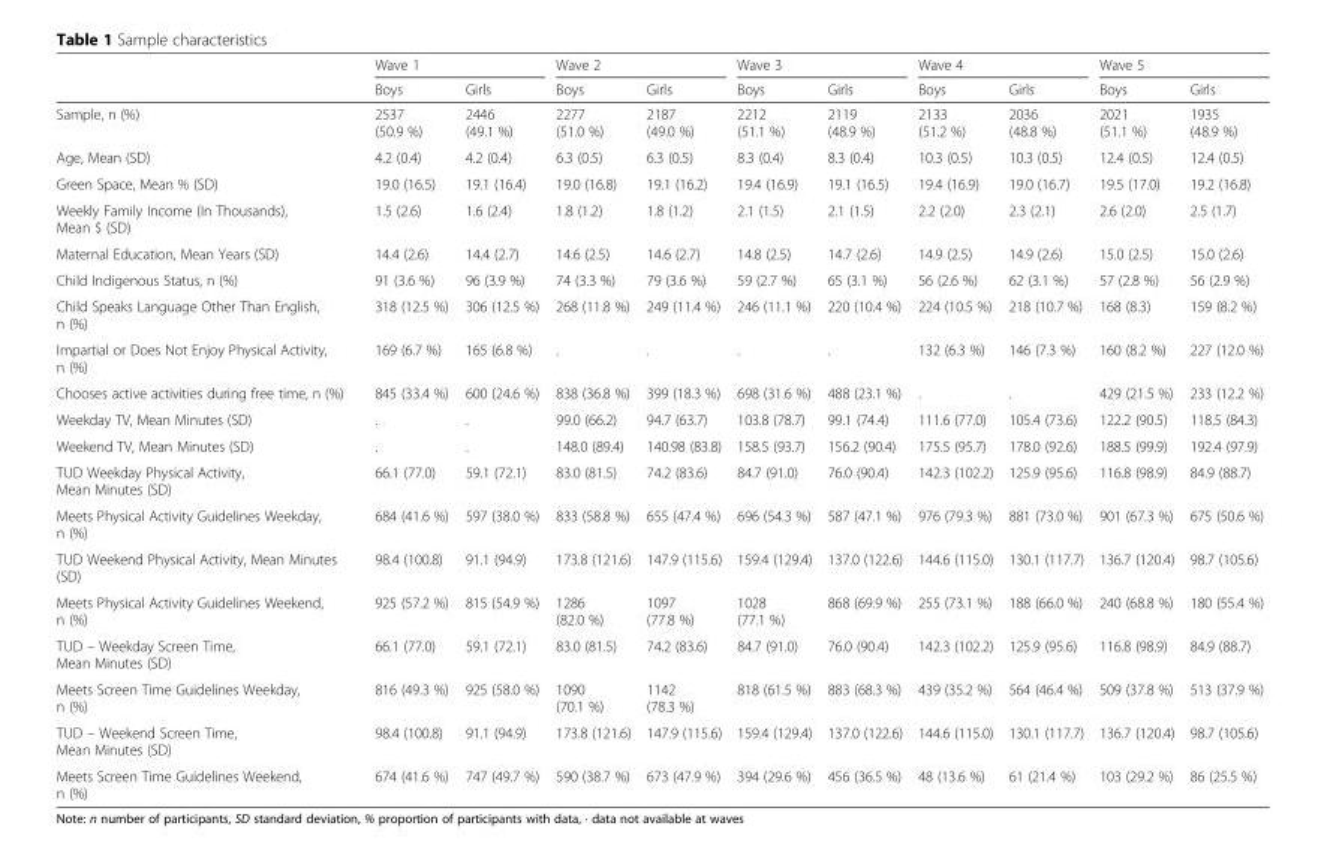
<table><thead><tr><td rowspan="2"></td><td colspan="2">Wave 1</td><td colspan="2">Wave 2</td><td colspan="2">Wave 3</td><td colspan="2">Wave 4</td><td colspan="2">Wave 5</td></tr><tr><td>Boys</td><td>Girls</td><td>Boys</td><td>Girls</td><td>Boys</td><td>Girls</td><td>Boys</td><td>Girls</td><td>Boys</td><td>Girls</td></tr></thead><tbody><tr><td>Sample, n (%)</td><td>2537 (50.9 %)</td><td>2446 (49.1 %)</td><td>2277 (51.0 %)</td><td>2187 (49.0 %)</td><td>2212 (51.1 %)</td><td>2119 (48.9 %)</td><td>2133 (51.2 %)</td><td>2036 (48.8 %)</td><td>2021 (51.1 %)</td><td>1935 (48.9 %)</td></tr><tr><td>Age, Mean (SD)</td><td>4.2 (0.4)</td><td>4.2 (0.4)</td><td>6.3 (0.5)</td><td>6.3 (0.5)</td><td>8.3 (0.4)</td><td>8.3 (0.4)</td><td>10.3 (0.5)</td><td>10.3 (0.5)</td><td>12.4 (0.5)</td><td>12.4 (0.5)</td></tr><tr><td>Green Space, Mean % (SD)</td><td>19.0 (16.5)</td><td>19.1 (16.4)</td><td>19.0 (16.8)</td><td>19.1 (16.2)</td><td>19.4 (16.9)</td><td>19.1 (16.5)</td><td>19.4 (16.9)</td><td>19.0 (16.7)</td><td>19.5 (17.0)</td><td>19.2 (16.8)</td></tr><tr><td>Weekly Family Income (In Thousands), Mean $ (SD)</td><td>1.5 (2.6)</td><td>1.6 (2.4)</td><td>1.8 (1.2)</td><td>1.8 (1.2)</td><td>2.1 (1.5)</td><td>2.1 (1.5)</td><td>2.2 (2.0)</td><td>2.3 (2.1)</td><td>2.6 (2.0)</td><td>2.5 (1.7)</td></tr><tr><td>Maternal Education, Mean Years (SD)</td><td>14.4 (2.6)</td><td>14.4 (2.7)</td><td>14.6 (2.5)</td><td>14.6 (2.7)</td><td>14.8 (2.5)</td><td>14.7 (2.6)</td><td>14.9 (2.5)</td><td>14.9 (2.6)</td><td>15.0 (2.5)</td><td>15.0 (2.6)</td></tr><tr><td>Child Indigenous Status, n (%)</td><td>91 (3.6 %)</td><td>96 (3.9 %)</td><td>74 (3.3 %)</td><td>79 (3.6 %)</td><td>59 (2.7 %)</td><td>65 (3.1 %)</td><td>56 (2.6 %)</td><td>62 (3.1 %)</td><td>57 (2.8 %)</td><td>56 (2.9 %)</td></tr><tr><td>Child Speaks Language Other Than English, n (%)</td><td>318 (12.5 %)</td><td>306 (12.5 %)</td><td>268 (11.8 %)</td><td>249 (11.4 %)</td><td>246 (11.1 %)</td><td>220 (10.4 %)</td><td>224 (10.5 %)</td><td>218 (10.7 %)</td><td>168 (8.3)</td><td>159 (8.2 %)</td></tr><tr><td>Impartial or Does Not Enjoy Physical Activity, n (%)</td><td>169 (6.7 %)</td><td>165 (6.8 %)</td><td>.</td><td>.</td><td>.</td><td>.</td><td>132 (6.3 %)</td><td>146 (7.3 %)</td><td>160 (8.2 %)</td><td>227 (12.0 %)</td></tr><tr><td>Chooses active activities during free time, n (%)</td><td>845 (33.4 %)</td><td>600 (24.6 %)</td><td>838 (36.8 %)</td><td>399 (18.3 %)</td><td>698 (31.6 %)</td><td>488 (23.1 %)</td><td>.</td><td>.</td><td>429 (21.5 %)</td><td>233 (12.2 %)</td></tr><tr><td>Weekday TV, Mean Minutes (SD)</td><td>.</td><td>.</td><td>99.0 (66.2)</td><td>94.7 (63.7)</td><td>103.8 (78.7)</td><td>99.1 (74.4)</td><td>111.6 (77.0)</td><td>105.4 (73.6)</td><td>122.2 (90.5)</td><td>118.5 (84.3)</td></tr><tr><td>Weekend TV, Mean Minutes (SD)</td><td>.</td><td>.</td><td>148.0 (89.4)</td><td>140.98 (83.8)</td><td>158.5 (93.7)</td><td>156.2 (90.4)</td><td>175.5 (95.7)</td><td>178.0 (92.6)</td><td>188.5 (99.9)</td><td>192.4 (97.9)</td></tr><tr><td>TUD Weekday Physical Activity, Mean Minutes (SD)</td><td>66.1 (77.0)</td><td>59.1 (72.1)</td><td>83.0 (81.5)</td><td>74.2 (83.6)</td><td>84.7 (91.0)</td><td>76.0 (90.4)</td><td>142.3 (102.2)</td><td>125.9 (95.6)</td><td>116.8 (98.9)</td><td>84.9 (88.7)</td></tr><tr><td>Meets Physical Activity Guidelines Weekday, n (%)</td><td>684 (41.6 %)</td><td>597 (38.0 %)</td><td>833 (58.8 %)</td><td>655 (47.4 %)</td><td>696 (54.3 %)</td><td>587 (47.1 %)</td><td>976 (79.3 %)</td><td>881 (73.0 %)</td><td>901 (67.3 %)</td><td>675 (50.6 %)</td></tr><tr><td>TUD Weekend Physical Activity, Mean Minutes (SD)</td><td>98.4 (100.8)</td><td>91.1 (94.9)</td><td>173.8 (121.6)</td><td>147.9 (115.6)</td><td>159.4 (129.4)</td><td>137.0 (122.6)</td><td>144.6 (115.0)</td><td>130.1 (117.7)</td><td>136.7 (120.4)</td><td>98.7 (105.6)</td></tr><tr><td>Meets Physical Activity Guidelines Weekend, n (%)</td><td>925 (57.2 %)</td><td>815 (54.9 %)</td><td>1286 (82.0 %)</td><td>1097 (77.8 %)</td><td>1028 (77.1 %)</td><td>868 (69.9 %)</td><td>255 (73.1 %)</td><td>188 (66.0 %)</td><td>240 (68.8 %)</td><td>180 (55.4 %)</td></tr><tr><td>TUD – Weekday Screen Time, Mean Minutes (SD)</td><td>66.1 (77.0)</td><td>59.1 (72.1)</td><td>83.0 (81.5)</td><td>74.2 (83.6)</td><td>84.7 (91.0)</td><td>76.0 (90.4)</td><td>142.3 (102.2)</td><td>125.9 (95.6)</td><td>116.8 (98.9)</td><td>84.9 (88.7)</td></tr><tr><td>Meets Screen Time Guidelines Weekday, n (%)</td><td>816 (49.3 %)</td><td>925 (58.0 %)</td><td>1090 (70.1 %)</td><td>1142 (78.3 %)</td><td>818 (61.5 %)</td><td>883 (68.3 %)</td><td>439 (35.2 %)</td><td>564 (46.4 %)</td><td>509 (37.8 %)</td><td>513 (37.9 %)</td></tr><tr><td>TUD – Weekend Screen Time, Mean Minutes (SD)</td><td>98.4 (100.8)</td><td>91.1 (94.9)</td><td>173.8 (121.6)</td><td>147.9 (115.6)</td><td>159.4 (129.4)</td><td>137.0 (122.6)</td><td>144.6 (115.0)</td><td>130.1 (117.7)</td><td>136.7 (120.4)</td><td>98.7 (105.6)</td></tr><tr><td>Meets Screen Time Guidelines Weekend, n (%)</td><td>674 (41.6 %)</td><td>747 (49.7 %)</td><td>590 (38.7 %)</td><td>673 (47.9 %)</td><td>394 (29.6 %)</td><td>456 (36.5 %)</td><td>48 (13.6 %)</td><td>61 (21.4 %)</td><td>103 (29.2 %)</td><td>86 (25.5 %)</td></tr></tbody></table>